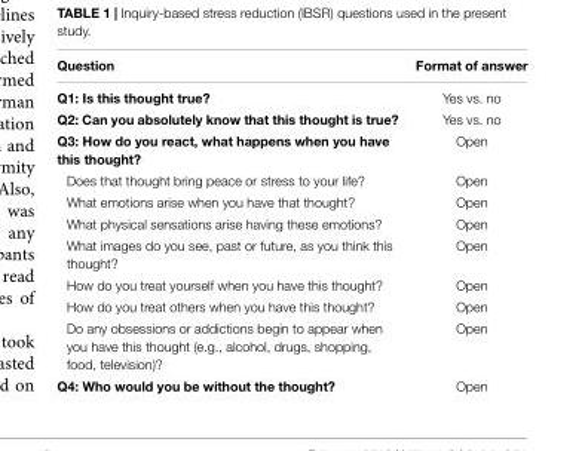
<table><thead><tr><td>Question</td><td>Format of answer</td></tr></thead><tbody><tr><td>Q1: Is this thought true?</td><td>Yes vs. no</td></tr><tr><td>Q2: Can you absolutely know that this thought is true?</td><td>Yes vs. no</td></tr><tr><td>Q3: How do you react, what happens when you have this thought?</td><td>Open</td></tr><tr><td>Does that thought bring peace or stress to your life?</td><td>Open</td></tr><tr><td>What emotions arise when you have that thought?</td><td>Open</td></tr><tr><td>What physical sensations arise having these emotions?</td><td>Open</td></tr><tr><td>What images do you see, past or future, as you think this thought?</td><td>Open</td></tr><tr><td>How do you treat yourself when you have this thought?</td><td>Open</td></tr><tr><td>How do you treat others when you have this thought?</td><td>Open</td></tr><tr><td>Do any obsessions or addictions begin to appear when you have this thought (e.g., alcohol, drugs, shopping, food, television)?</td><td>Open</td></tr><tr><td>Q4: Who would you be without the thought?</td><td>Open</td></tr></tbody></table>